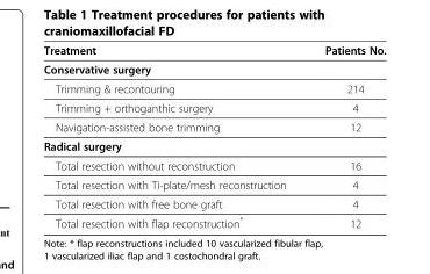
<table><thead><tr><td>Treatment</td><td>Patients No.</td></tr></thead><tbody><tr><td colspan="2">Conservative surgery</td></tr><tr><td>Trimming &amp; recontouring</td><td>214</td></tr><tr><td>Trimming + orthoganthic surgery</td><td>4</td></tr><tr><td>Navigation-assisted bone trimming</td><td>12</td></tr><tr><td colspan="2">Radical surgery</td></tr><tr><td>Total resection without reconstruction</td><td>16</td></tr><tr><td>Total resection with Ti-plate/mesh reconstruction</td><td>4</td></tr><tr><td>Total resection with free bone graft</td><td>4</td></tr><tr><td>Total resection with flap reconstruction*</td><td>12</td></tr></tbody></table>